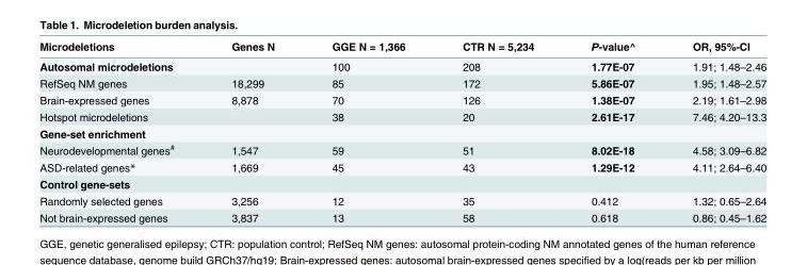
<table><thead><tr><td>Microdeletions</td><td>Genes N</td><td>GGE N = 1,366</td><td>CTR N = 5,234</td><td>P-value^</td><td>OR, 95%-CI</td></tr></thead><tbody><tr><td>Autosomal microdeletions</td><td></td><td>100</td><td>208</td><td>1.77E-07</td><td>1.91; 1.48–2.46</td></tr><tr><td>RefSeq NM genes</td><td>18,299</td><td>85</td><td>172</td><td>5.86E-07</td><td>1.95; 1.48–2.57</td></tr><tr><td>Brain-expressed genes</td><td>8,878</td><td>70</td><td>126</td><td>1.38E-07</td><td>2.19; 1.61–2.98</td></tr><tr><td>Hotspot microdeletions</td><td></td><td>38</td><td>20</td><td>2.61E-17</td><td>7.46; 4.20–13.3</td></tr><tr><td colspan="6">Gene-set enrichment</td></tr><tr><td>Neurodevelopmental genes<sup>#</sup></td><td>1,547</td><td>59</td><td>51</td><td>8.02E-18</td><td>4.58; 3.09–6.82</td></tr><tr><td>ASD-related genes*</td><td>1,669</td><td>45</td><td>43</td><td>1.29E-12</td><td>4.11; 2.64–6.40</td></tr><tr><td colspan="6">Control gene-sets</td></tr><tr><td>Randomly selected genes</td><td>3,256</td><td>12</td><td>35</td><td>0.412</td><td>1.32; 0.65–2.64</td></tr><tr><td>Not brain-expressed genes</td><td>3,837</td><td>13</td><td>58</td><td>0.618</td><td>0.86; 0.45–1.62</td></tr></tbody></table>